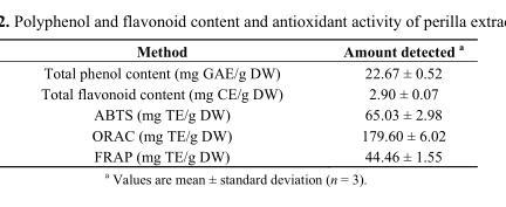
<table><thead><tr><td>Method</td><td>Amount detected <sup>a</sup></td></tr></thead><tbody><tr><td>Total phenol content (mg GAE/g DW)</td><td>22.67 ± 0.52</td></tr><tr><td>Total flavonoid content (mg CE/g DW)</td><td>2.90 ± 0.07</td></tr><tr><td>ABTS (mg TE/g DW)</td><td>65.03 ± 2.98</td></tr><tr><td>ORAC (mg TE/g DW)</td><td>179.60 ± 6.02</td></tr><tr><td>FRAP (mg TE/g DW)</td><td>44.46 ± 1.55</td></tr></tbody></table>